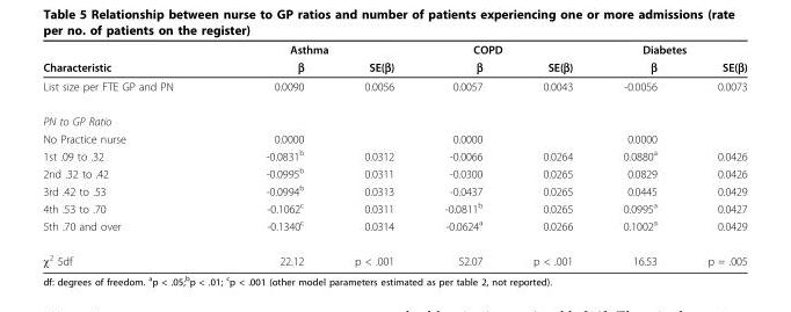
<table><thead><tr><td rowspan="2">Characteristic</td><td colspan="2">Asthma</td><td colspan="2">COPD</td><td colspan="2">Diabetes</td></tr><tr><td>β</td><td>SE(β)</td><td>β</td><td>SE(β)</td><td>β</td><td>SE(β)</td></tr></thead><tbody><tr><td>List size per FTE GP and PN</td><td>0.0090</td><td>0.0056</td><td>0.0057</td><td>0.0043</td><td>-0.0056</td><td>0.0073</td></tr><tr><td colspan="7">PN to GP Ratio</td></tr><tr><td>No Practice nurse</td><td>0.0000</td><td></td><td>0.0000</td><td></td><td>0.0000</td><td></td></tr><tr><td>1st .09 to .32</td><td>-0.0831<sup>b</sup></td><td>0.0312</td><td>-0.0066</td><td>0.0264</td><td>0.0880<sup>a</sup></td><td>0.0426</td></tr><tr><td>2nd .32 to .42</td><td>-0.0995<sup>b</sup></td><td>0.0311</td><td>-0.0300</td><td>0.0265</td><td>0.0829</td><td>0.0426</td></tr><tr><td>3rd .42 to .53</td><td>-0.0994<sup>b</sup></td><td>0.0313</td><td>-0.0437</td><td>0.0265</td><td>0.0445</td><td>0.0429</td></tr><tr><td>4th .53 to .70</td><td>-0.1062<sup>c</sup></td><td>0.0311</td><td>-0.0811<sup>b</sup></td><td>0.0265</td><td>0.0995<sup>a</sup></td><td>0.0427</td></tr><tr><td>5th .70 and over</td><td>-0.1340<sup>c</sup></td><td>0.0314</td><td>-0.0624<sup>a</sup></td><td>0.0266</td><td>0.1002<sup>a</sup></td><td>0.0429</td></tr><tr><td>χ<sup>2</sup> 5df</td><td>22.12</td><td>p &lt; .001</td><td>52.07</td><td>p &lt; .001</td><td>16.53</td><td>p = .005</td></tr></tbody></table>